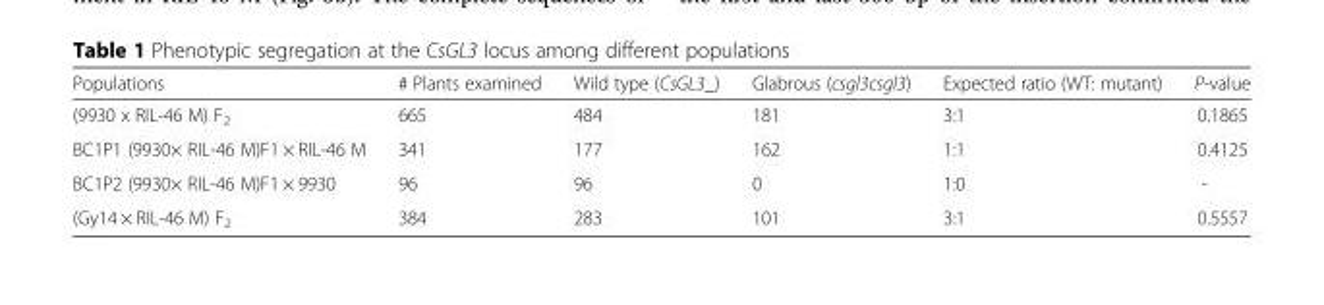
<table><thead><tr><td>Populations</td><td># Plants examined</td><td>Wild type (CsGL3_)</td><td>Glabrous (csgl3csgl3)</td><td>Expected ratio (WT: mutant)</td><td>P-value</td></tr></thead><tbody><tr><td>(9930 x RIL-46 M) F<sub>2</sub></td><td>665</td><td>484</td><td>181</td><td>3:1</td><td>0.1865</td></tr><tr><td>BC1P1 (9930× RIL-46 M)F1 × RIL-46 M</td><td>341</td><td>177</td><td>162</td><td>1:1</td><td>0.4125</td></tr><tr><td>BC1P2 (9930× RIL-46 M)F1 × 9930</td><td>96</td><td>96</td><td>0</td><td>1:0</td><td>-</td></tr><tr><td>(Gy14 × RIL-46 M) F<sub>2</sub></td><td>384</td><td>283</td><td>101</td><td>3:1</td><td>0.5557</td></tr></tbody></table>